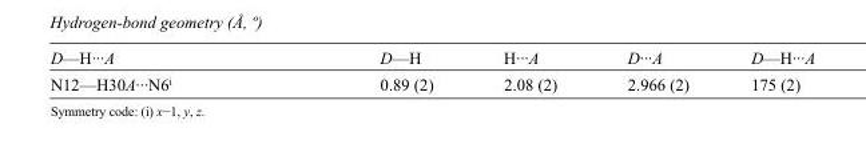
<table><tbody><tr><td>D—H···A</td><td>D—H</td><td>H···A</td><td>D···A</td><td>D—H···A</td></tr><tr><td>N12—H30A···N6<sup>i</sup></td><td>0.89 (2)</td><td>2.08 (2)</td><td>2.966 (2)</td><td>175 (2)</td></tr></tbody></table>